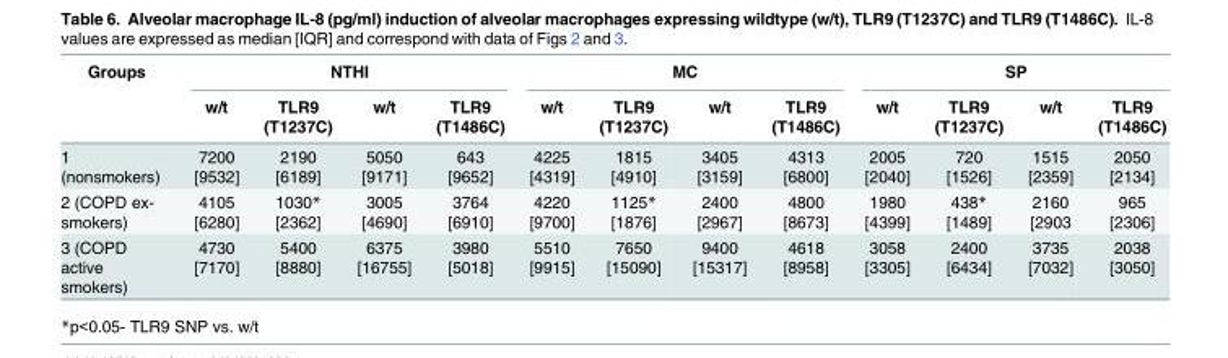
<table><thead><tr><td rowspan="2">Groups</td><td colspan="4">NTHI</td><td colspan="4">MC</td><td colspan="4">SP</td></tr><tr><td>w/t</td><td>TLR9 (T1237C)</td><td>w/t</td><td>TLR9 (T1486C)</td><td>w/t</td><td>TLR9 (T1237C)</td><td>w/t</td><td>TLR9 (T1486C)</td><td>w/t</td><td>TLR9 (T1237C)</td><td>w/t</td><td>TLR9 (T1486C)</td></tr></thead><tbody><tr><td>1 (nonsmokers)</td><td>7200 [9532]</td><td>2190 [6189]</td><td>5050 [9171]</td><td>643 [9652]</td><td>4225 [4319]</td><td>1815 [4910]</td><td>3405 [3159]</td><td>4313 [6800]</td><td>2005 [2040]</td><td>720 [1526]</td><td>1515 [2359]</td><td>2050 [2134]</td></tr><tr><td>2 (COPD ex- smokers)</td><td>4105 [6280]</td><td>1030* [2362]</td><td>3005 [4690]</td><td>3764 [6910]</td><td>4220 [9700]</td><td>1125* [1876]</td><td>2400 [2967]</td><td>4800 [8673]</td><td>1980 [4399]</td><td>438* [1489]</td><td>2160 [2903</td><td>965 [2306]</td></tr><tr><td>3 (COPD active smokers)</td><td>4730 [7170]</td><td>5400 [8880]</td><td>6375 [16755]</td><td>3980 [5018]</td><td>5510 [9915]</td><td>7650 [15090]</td><td>9400 [15317]</td><td>4618 [8958]</td><td>3058 [3305]</td><td>2400 [6434]</td><td>3735 [7032]</td><td>2038 [3050]</td></tr></tbody></table>